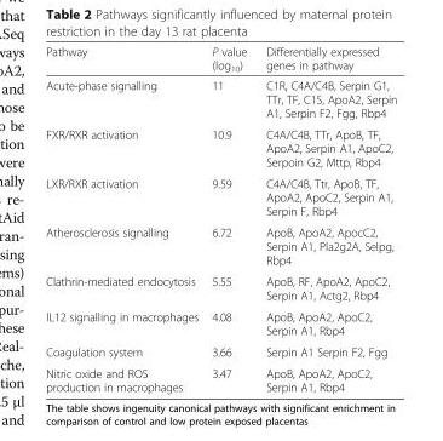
<table><thead><tr><td>Pathway</td><td>P value (log<sub>10</sub>)</td><td>Differentially expressed genes in pathway</td></tr></thead><tbody><tr><td>Acute-phase signalling</td><td>11</td><td>C1R, C4A/C4B, Serpin G1, TTr, TF, C1S, ApoA2, Serpin A1, Serpin F2, Fgg, Rbp4</td></tr><tr><td>FXR/RXR activation</td><td>10.9</td><td>C4A/C4B, TTr, ApoB, TF, ApoA2, Serpin A1, ApoC2, Serpoin G2, Mttp, Rbp4</td></tr><tr><td>LXR/RXR activation</td><td>9.59</td><td>C4A/C4B, Ttr, ApoB, TF, ApoA2, ApoC2, Serpin A1, Serpin F, Rbp4</td></tr><tr><td>Atherosclerosis signalling</td><td>6.72</td><td>ApoB, ApoA2, ApocC2, Serpin A1, Pla2g2A, Selpg, Rbp4</td></tr><tr><td>Clathrin-mediated endocytosis</td><td>5.55</td><td>ApoB, RF, ApoA2, ApoC2, Serpin A1, Actg2, Rbp4</td></tr><tr><td>IL12 signalling in macrophages</td><td>4.08</td><td>ApoB, ApoA2, ApoC2, Serpin A1, Rbp4</td></tr><tr><td>Coagulation system</td><td>3.66</td><td>Serpin A1 Serpin F2, Fgg</td></tr><tr><td>Nitric oxide and ROS production in macrophages</td><td>3.47</td><td>ApoB, ApoA2, ApoC2, Serpin A1, Rbp4</td></tr></tbody></table>